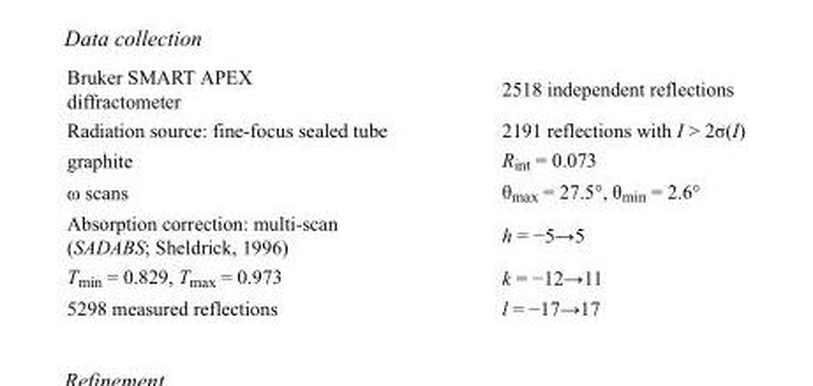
<table><tbody><tr><td>Bruker SMART APEX diffractometer</td><td>2518 independent reflections</td></tr><tr><td>Radiation source: fine-focus sealed tube</td><td>2191 reflections with I &gt; 2σ(I)</td></tr><tr><td>graphite</td><td>R<sub>int</sub> = 0.073</td></tr><tr><td>ω scans</td><td>θ<sub>max</sub> = 27.5°, θ<sub>min</sub> = 2.6°</td></tr><tr><td>Absorption correction: multi-scan (SADABS; Sheldrick, 1996)</td><td>h = −5→5</td></tr><tr><td>T<sub>min</sub> = 0.829, T<sub>max</sub> = 0.973</td><td>k = −12→11</td></tr><tr><td>5298 measured reflections</td><td>l = −17→17</td></tr></tbody></table>